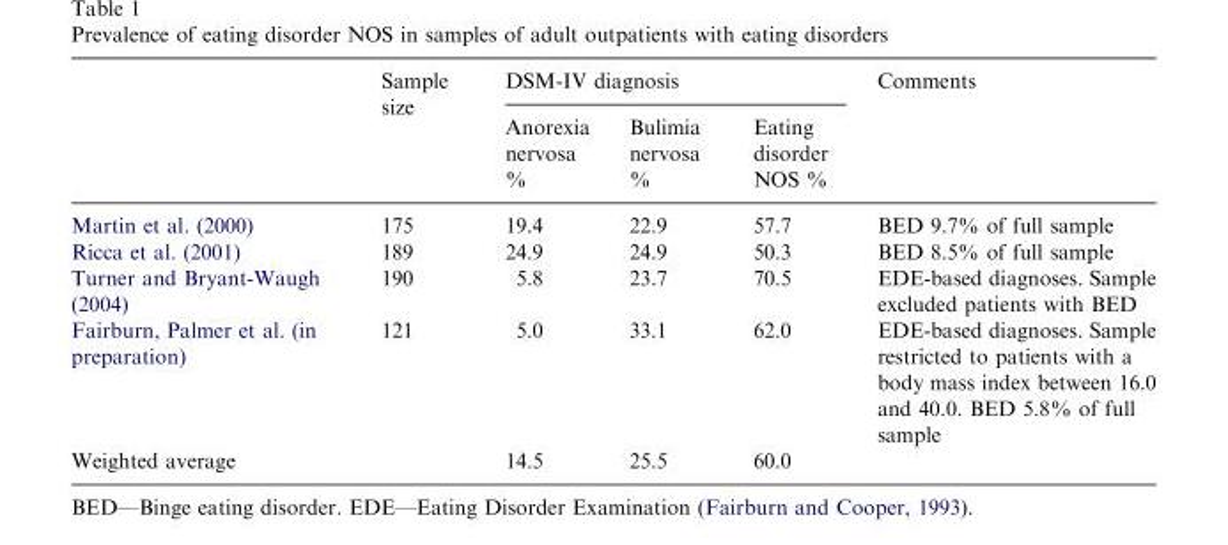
<table><thead><tr><td rowspan="2"></td><td rowspan="2">Sample size</td><td colspan="3">DSM-IV diagnosis</td><td rowspan="2">Comments</td></tr><tr><td>Anorexia nervosa %</td><td>Bulimia nervosa %</td><td>Eating disorder NOS %</td></tr></thead><tbody><tr><td>Martin et al. (2000)</td><td>175</td><td>19.4</td><td>22.9</td><td>57.7</td><td>BED 9.7% of full sample</td></tr><tr><td>Ricca et al. (2001)</td><td>189</td><td>24.9</td><td>24.9</td><td>50.3</td><td>BED 8.5% of full sample</td></tr><tr><td>Turner and Bryant-Waugh (2004)</td><td>190</td><td>5.8</td><td>23.7</td><td>70.5</td><td>EDE-based diagnoses. Sample excluded patients with BED</td></tr><tr><td>Fairburn, Palmer et al. (in preparation)</td><td>121</td><td>5.0</td><td>33.1</td><td>62.0</td><td>EDE-based diagnoses. Sample restricted to patients with a body mass index between 16.0 and 40.0. BED 5.8% of full sample</td></tr><tr><td>Weighted average</td><td></td><td>14.5</td><td>25.5</td><td>60.0</td><td></td></tr></tbody></table>